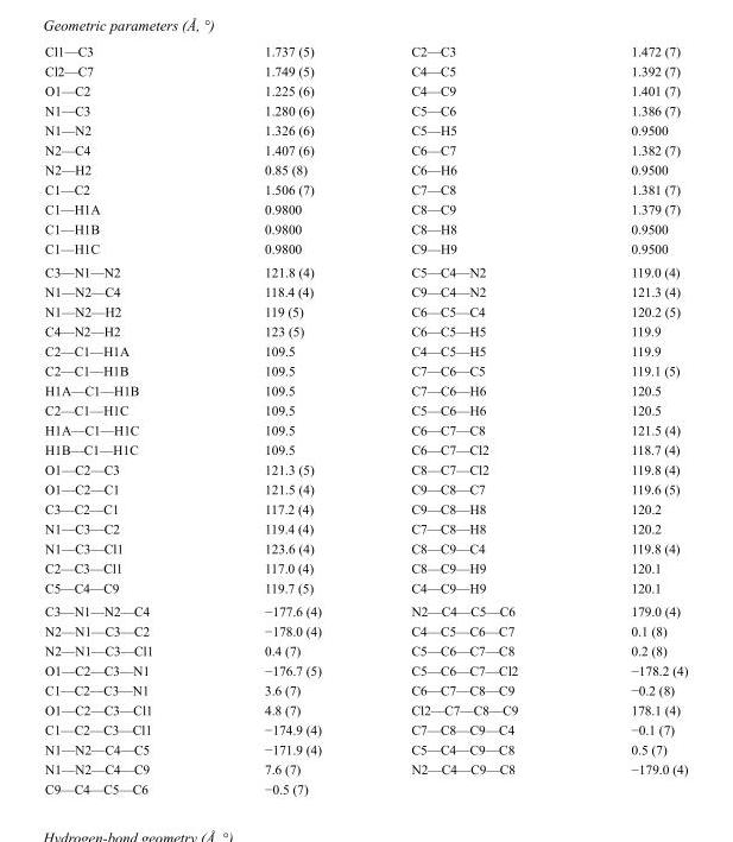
<table><tbody><tr><td>Cl1—C3</td><td>1.737 (5)</td><td>C2—C3</td><td>1.472 (7)</td></tr><tr><td>Cl2—C7</td><td>1.749 (5)</td><td>C4—C5</td><td>1.392 (7)</td></tr><tr><td>O1—C2</td><td>1.225 (6)</td><td>C4—C9</td><td>1.401 (7)</td></tr><tr><td>N1—C3</td><td>1.280 (6)</td><td>C5—C6</td><td>1.386 (7)</td></tr><tr><td>N1—N2</td><td>1.326 (6)</td><td>C5—H5</td><td>0.9500</td></tr><tr><td>N2—C4</td><td>1.407 (6)</td><td>C6—C7</td><td>1.382 (7)</td></tr><tr><td>N2—H2</td><td>0.85 (8)</td><td>C6—H6</td><td>0.9500</td></tr><tr><td>C1—C2</td><td>1.506 (7)</td><td>C7—C8</td><td>1.381 (7)</td></tr><tr><td>C1—H1A</td><td>0.9800</td><td>C8—C9</td><td>1.379 (7)</td></tr><tr><td>C1—H1B</td><td>0.9800</td><td>C8—H8</td><td>0.9500</td></tr><tr><td>C1—H1C</td><td>0.9800</td><td>C9—H9</td><td>0.9500</td></tr><tr><td>C3—N1—N2</td><td>121.8 (4)</td><td>C5—C4—N2</td><td>119.0 (4)</td></tr><tr><td>N1—N2—C4</td><td>118.4 (4)</td><td>C9—C4—N2</td><td>121.3 (4)</td></tr><tr><td>N1—N2—H2</td><td>119 (5)</td><td>C6—C5—C4</td><td>120.2 (5)</td></tr><tr><td>C4—N2—H2</td><td>123 (5)</td><td>C6—C5—H5</td><td>119.9</td></tr><tr><td>C2—C1—H1A</td><td>109.5</td><td>C4—C5—H5</td><td>119.9</td></tr><tr><td>C2—C1—H1B</td><td>109.5</td><td>C7—C6—C5</td><td>119.1 (5)</td></tr><tr><td>H1A—C1—H1B</td><td>109.5</td><td>C7—C6—H6</td><td>120.5</td></tr><tr><td>C2—C1—H1C</td><td>109.5</td><td>C5—C6—H6</td><td>120.5</td></tr><tr><td>H1A—C1—H1C</td><td>109.5</td><td>C6—C7—C8</td><td>121.5 (4)</td></tr><tr><td>H1B—C1—H1C</td><td>109.5</td><td>C6—C7—Cl2</td><td>118.7 (4)</td></tr><tr><td>O1—C2—C3</td><td>121.3 (5)</td><td>C8—C7—Cl2</td><td>119.8 (4)</td></tr><tr><td>O1—C2—C1</td><td>121.5 (4)</td><td>C9—C8—C7</td><td>119.6 (5)</td></tr><tr><td>C3—C2—C1</td><td>117.2 (4)</td><td>C9—C8—H8</td><td>120.2</td></tr><tr><td>N1—C3—C2</td><td>119.4 (4)</td><td>C7—C8—H8</td><td>120.2</td></tr><tr><td>N1—C3—Cl1</td><td>123.6 (4)</td><td>C8—C9—C4</td><td>119.8 (4)</td></tr><tr><td>C2—C3—Cl1</td><td>117.0 (4)</td><td>C8—C9—H9</td><td>120.1</td></tr><tr><td>C5—C4—C9</td><td>119.7 (5)</td><td>C4—C9—H9</td><td>120.1</td></tr><tr><td>C3—N1—N2—C4</td><td>−177.6 (4)</td><td>N2—C4—C5—C6</td><td>179.0 (4)</td></tr><tr><td>N2—N1—C3—C2</td><td>−178.0 (4)</td><td>C4—C5—C6—C7</td><td>0.1 (8)</td></tr><tr><td>N2—N1—C3—Cl1</td><td>0.4 (7)</td><td>C5—C6—C7—C8</td><td>0.2 (8)</td></tr><tr><td>O1—C2—C3—N1</td><td>−176.7 (5)</td><td>C5—C6—C7—Cl2</td><td>−178.2 (4)</td></tr><tr><td>C1—C2—C3—N1</td><td>3.6 (7)</td><td>C6—C7—C8—C9</td><td>−0.2 (8)</td></tr><tr><td>O1—C2—C3—Cl1</td><td>4.8 (7)</td><td>Cl2—C7—C8—C9</td><td>178.1 (4)</td></tr><tr><td>C1—C2—C3—Cl1</td><td>−174.9 (4)</td><td>C7—C8—C9—C4</td><td>−0.1 (7)</td></tr><tr><td>N1—N2—C4—C5</td><td>−171.9 (4)</td><td>C5—C4—C9—C8</td><td>0.5 (7)</td></tr><tr><td>N1—N2—C4—C9</td><td>7.6 (7)</td><td>N2—C4—C9—C8</td><td>−179.0 (4)</td></tr><tr><td>C9—C4—C5—C6</td><td>−0.5 (7)</td><td></td><td></td></tr></tbody></table>